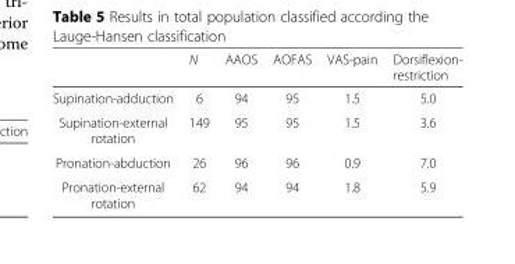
<table><thead><tr><td></td><td>N</td><td>AAOS</td><td>AOFAS</td><td>VAS-pain</td><td>Dorsiflexion- restriction</td></tr></thead><tbody><tr><td>Supination-adduction</td><td>6</td><td>94</td><td>95</td><td>1.5</td><td>5.0</td></tr><tr><td>Supination-external rotation</td><td>149</td><td>95</td><td>95</td><td>1.5</td><td>3.6</td></tr><tr><td>Pronation-abduction</td><td>26</td><td>96</td><td>96</td><td>0.9</td><td>7.0</td></tr><tr><td>Pronation-external rotation</td><td>62</td><td>94</td><td>94</td><td>1.8</td><td>5.9</td></tr></tbody></table>